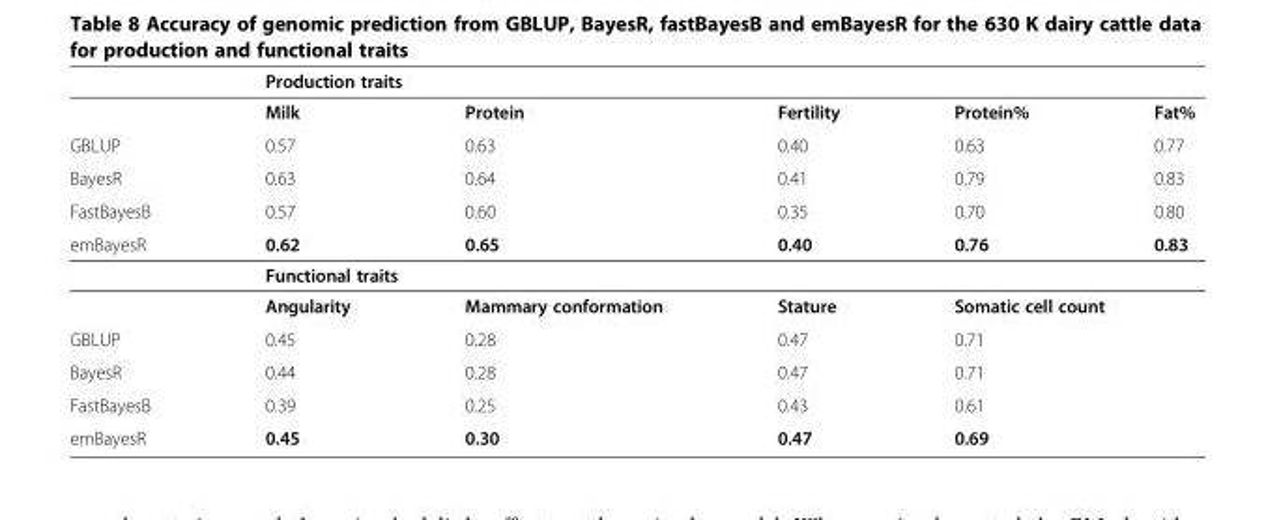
<table><thead><tr><td rowspan="2"></td><td colspan="5">Production traits</td></tr><tr><td>Milk</td><td>Protein</td><td>Fertility</td><td>Protein%</td><td>Fat%</td></tr></thead><tbody><tr><td>GBLUP</td><td>0.57</td><td>0.63</td><td>0.40</td><td>0.63</td><td>0.77</td></tr><tr><td>BayesR</td><td>0.63</td><td>0.64</td><td>0.41</td><td>0.79</td><td>0.83</td></tr><tr><td>FastBayesB</td><td>0.57</td><td>0.60</td><td>0.35</td><td>0.70</td><td>0.80</td></tr><tr><td rowspan="3">emBayesR</td><td>0.62</td><td>0.65</td><td>0.40</td><td>0.76</td><td>0.83</td></tr><tr><td colspan="5">Functional traits</td></tr><tr><td>Angularity</td><td>Mammary conformation</td><td>Stature</td><td colspan="2">Somatic cell count</td></tr><tr><td>GBLUP</td><td>0.45</td><td>0.28</td><td>0.47</td><td colspan="2">0.71</td></tr><tr><td>BayesR</td><td>0.44</td><td>0.28</td><td>0.47</td><td colspan="2">0.71</td></tr><tr><td>FastBayesB</td><td>0.39</td><td>0.25</td><td>0.43</td><td colspan="2">0.61</td></tr><tr><td>emBayesR</td><td>0.45</td><td>0.30</td><td>0.47</td><td colspan="2">0.69</td></tr></tbody></table>